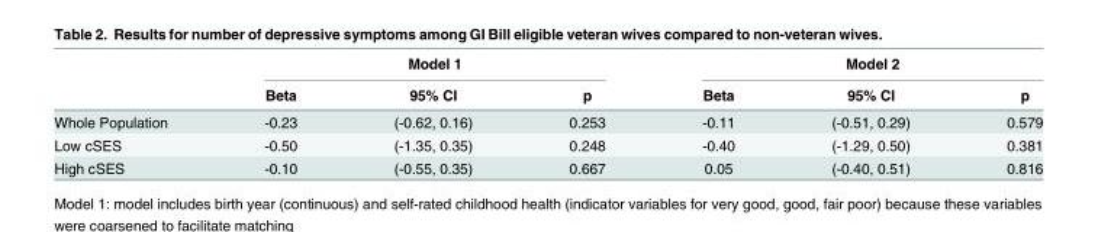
<table><thead><tr><td rowspan="2"></td><td colspan="3">Model 1</td><td colspan="3">Model 2</td></tr><tr><td>Beta</td><td>95% CI</td><td>p</td><td>Beta</td><td>95% CI</td><td>p</td></tr></thead><tbody><tr><td>Whole Population</td><td>-0.23</td><td>(-0.62, 0.16)</td><td>0.253</td><td>-0.11</td><td>(-0.51, 0.29)</td><td>0.579</td></tr><tr><td>Low cSES</td><td>-0.50</td><td>(-1.35, 0.35)</td><td>0.248</td><td>-0.40</td><td>(-1.29, 0.50)</td><td>0.381</td></tr><tr><td>High cSES</td><td>-0.10</td><td>(-0.55, 0.35)</td><td>0.667</td><td>0.05</td><td>(-0.40, 0.51)</td><td>0.816</td></tr></tbody></table>